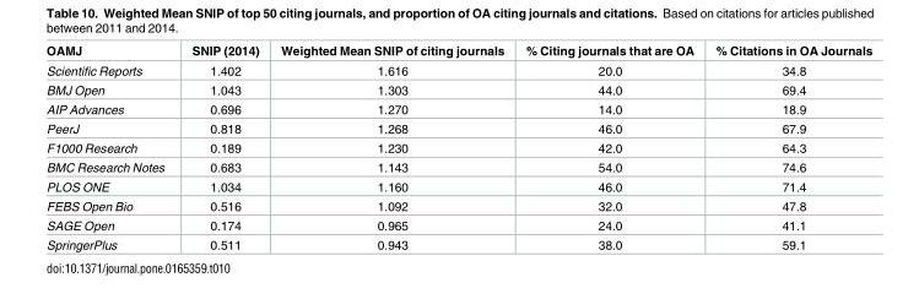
<table><thead><tr><td>OAMJ</td><td>SNIP (2014)</td><td>Weighted Mean SNIP of citing journals</td><td>% Citing journals that are OA</td><td>% Citations in OA Journals</td></tr></thead><tbody><tr><td>Scientific Reports</td><td>1.402</td><td>1.616</td><td>20.0</td><td>34.8</td></tr><tr><td>BMJ Open</td><td>1.043</td><td>1.303</td><td>44.0</td><td>69.4</td></tr><tr><td>AIP Advances</td><td>0.696</td><td>1.270</td><td>14.0</td><td>18.9</td></tr><tr><td>PeerJ</td><td>0.818</td><td>1.268</td><td>46.0</td><td>67.9</td></tr><tr><td>F1000 Research</td><td>0.189</td><td>1.230</td><td>42.0</td><td>64.3</td></tr><tr><td>BMC Research Notes</td><td>0.683</td><td>1.143</td><td>54.0</td><td>74.6</td></tr><tr><td>PLOS ONE</td><td>1.034</td><td>1.160</td><td>46.0</td><td>71.4</td></tr><tr><td>FEBS Open Bio</td><td>0.516</td><td>1.092</td><td>32.0</td><td>47.8</td></tr><tr><td>SAGE Open</td><td>0.174</td><td>0.965</td><td>24.0</td><td>41.1</td></tr><tr><td>SpringerPlus</td><td>0.511</td><td>0.943</td><td>38.0</td><td>59.1</td></tr></tbody></table>